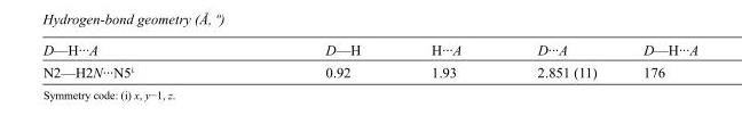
<table><tbody><tr><td>D—H···A</td><td>D—H</td><td>H···A</td><td>D···A</td><td>D—H···A</td></tr><tr><td>N2—H2N···N5<sup>i</sup></td><td>0.92</td><td>1.93</td><td>2.851 (11)</td><td>176</td></tr></tbody></table>